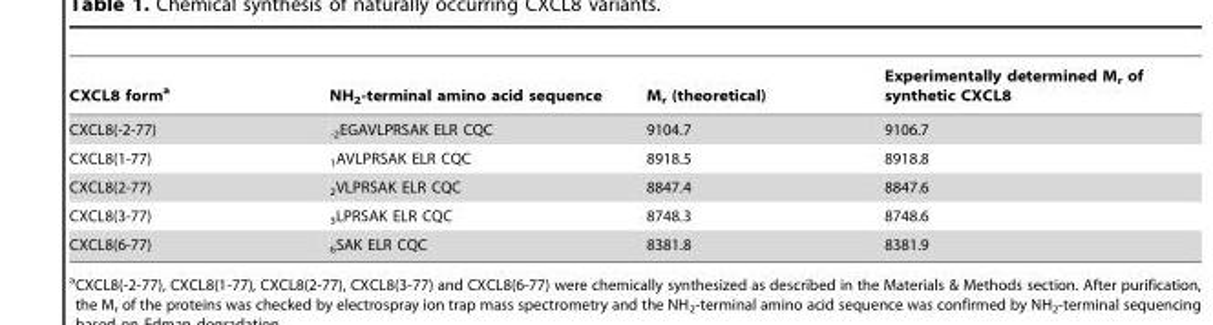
<table><thead><tr><td>CXCL8 form<sup>a</sup></td><td>NH<sub>2</sub>-terminal amino acid sequence</td><td>M<sub>r</sub> (theoretical)</td><td>Experimentally determined M<sub>r</sub> of synthetic CXCL8</td></tr></thead><tbody><tr><td>CXCL8(-2-77)</td><td><sub>-2</sub>EGAVLPRSAK ELR CQC</td><td>9104.7</td><td>9106.7</td></tr><tr><td>CXCL8(1-77)</td><td><sub>1</sub>AVLPRSAK ELR CQC</td><td>8918.5</td><td>8918.8</td></tr><tr><td>CXCL8(2-77)</td><td><sub>2</sub>VLPRSAK ELR CQC</td><td>8847.4</td><td>8847.6</td></tr><tr><td>CXCL8(3-77)</td><td><sub>3</sub>LPRSAK ELR CQC</td><td>8748.3</td><td>8748.6</td></tr><tr><td>CXCL8(6-77)</td><td><sub>6</sub>SAK ELR CQC</td><td>8381.8</td><td>8381.9</td></tr></tbody></table>